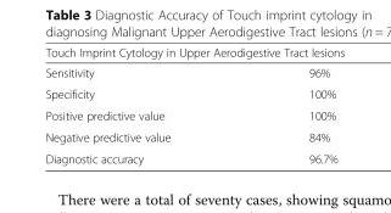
<table><thead><tr><td colspan="2">Touch Imprint Cytology in Upper Aerodigestive Tract lesions</td></tr><tr><td>Sensitivity</td><td>96%</td></tr></thead><tbody><tr><td>Specificity</td><td>100%</td></tr><tr><td>Positive predictive value</td><td>100%</td></tr><tr><td>Negative predictive value</td><td>84%</td></tr><tr><td>Diagnostic accuracy</td><td>96.7%</td></tr></tbody></table>